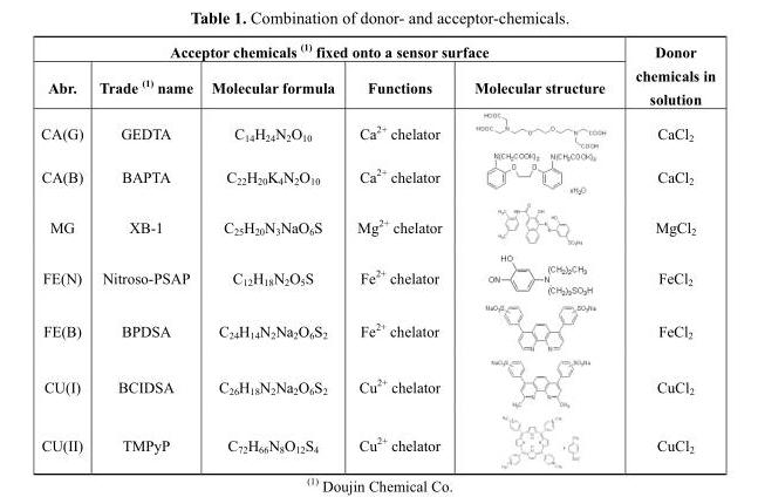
<table><thead><tr><td colspan="5">Acceptor chemicals (1) fixed onto a sensor surface</td><td rowspan="2">Donor chemicals in solution</td></tr><tr><td>Abr.</td><td>Trade (1) name</td><td>Molecular formula</td><td>Functions</td><td>Molecular structure</td></tr></thead><tbody><tr><td>CA(G)</td><td>GEDTA</td><td>C<sub>14</sub>H<sub>24</sub>N<sub>2</sub>O<sub>10</sub></td><td>Ca<sup>2+</sup> chelator</td><td></td><td>CaCl<sub>2</sub></td></tr><tr><td>CA(B)</td><td>BAPTA</td><td>C<sub>22</sub>H<sub>20</sub>K<sub>4</sub>N<sub>2</sub>O<sub>10</sub></td><td>Ca<sup>2+</sup> chelator</td><td></td><td>CaCl<sub>2</sub></td></tr><tr><td>MG</td><td>XB-1</td><td>C<sub>25</sub>H<sub>20</sub>N<sub>3</sub>NaO<sub>6</sub>S</td><td>Mg<sup>2+</sup> chelator</td><td></td><td>MgCl<sub>2</sub></td></tr><tr><td>FE(N)</td><td>Nitroso-PSAP</td><td>C<sub>12</sub>H<sub>18</sub>N<sub>2</sub>O<sub>5</sub>S</td><td>Fe<sup>2+</sup> chelator</td><td></td><td>FeCl<sub>2</sub></td></tr><tr><td>FE(B)</td><td>BPDSA</td><td>C<sub>24</sub>H<sub>14</sub>N<sub>2</sub>Na<sub>2</sub>O<sub>6</sub>S<sub>2</sub></td><td>Fe<sup>2+</sup> chelator</td><td></td><td>FeCl<sub>2</sub></td></tr><tr><td>CU(I)</td><td>BCIDSA</td><td>C<sub>26</sub>H<sub>18</sub>N<sub>2</sub>Na<sub>2</sub>O<sub>6</sub>S<sub>2</sub></td><td>Cu<sup>2+</sup> chelator</td><td></td><td>CuCl<sub>2</sub></td></tr><tr><td>CU(II)</td><td>TMPyP</td><td>C<sub>72</sub>H<sub>66</sub>N<sub>8</sub>O<sub>12</sub>S<sub>4</sub></td><td>Cu<sup>2+</sup> chelator</td><td></td><td>CuCl<sub>2</sub></td></tr></tbody></table>